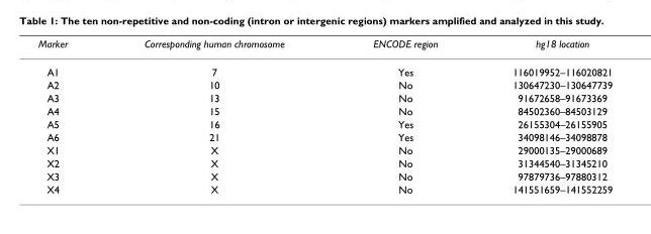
<table><thead><tr><td>Marker</td><td>Corresponding human chromosome</td><td>ENCODE region</td><td>hg18 location</td></tr></thead><tbody><tr><td>A1</td><td>7</td><td>Yes</td><td>116019952–116020821</td></tr><tr><td>A2</td><td>10</td><td>No</td><td>130647230–130647739</td></tr><tr><td>A3</td><td>13</td><td>No</td><td>91672658–91673369</td></tr><tr><td>A4</td><td>15</td><td>No</td><td>84502360–84503129</td></tr><tr><td>A5</td><td>16</td><td>Yes</td><td>26155304–26155905</td></tr><tr><td>A6</td><td>21</td><td>Yes</td><td>34098146–34098878</td></tr><tr><td>X1</td><td>X</td><td>No</td><td>29000135–29000689</td></tr><tr><td>X2</td><td>X</td><td>No</td><td>31344540–31345210</td></tr><tr><td>X3</td><td>X</td><td>No</td><td>97879736–97880312</td></tr><tr><td>X4</td><td>X</td><td>No</td><td>141551659–141552259</td></tr></tbody></table>